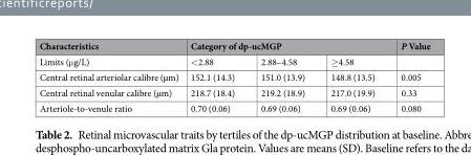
<table><thead><tr><td rowspan="2">Characteristics Limits (μg/L)</td><td colspan="3">Category of dp-ucMGP</td><td rowspan="2">P Value</td></tr><tr><td>&lt;2.88</td><td>2.88–4.58</td><td>≥4.58</td></tr></thead><tbody><tr><td>Central retinal arteriolar calibre (µm)</td><td>152.1 (14.3)</td><td>151.0 (13.9)</td><td>148.8 (13.5)</td><td>0.005</td></tr><tr><td>Central retinal venular calibre (µm)</td><td>218.7 (18.4)</td><td>219.2 (18.9)</td><td>217.0 (19.9)</td><td>0.33</td></tr><tr><td>Arteriole-to-venule ratio</td><td>0.70 (0.06)</td><td>0.69 (0.06)</td><td>0.69 (0.06)</td><td>0.080</td></tr></tbody></table>